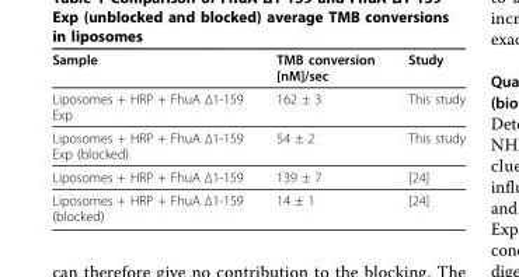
<table><thead><tr><td>Sample</td><td>TMB conversion [nM]/sec</td><td>Study</td></tr></thead><tbody><tr><td>Liposomes + HRP + FhuA Δ1-159 Exp</td><td>162 ± 3</td><td>This study</td></tr><tr><td>Liposomes + HRP + FhuA Δ1-159 Exp (blocked)</td><td>54 ± 2</td><td>This study</td></tr><tr><td>Liposomes + HRP + FhuA Δ1-159</td><td>139 ± 7</td><td>[24]</td></tr><tr><td>Liposomes + HRP + FhuA Δ1-159 (blocked)</td><td>14 ± 1</td><td>[24]</td></tr></tbody></table>